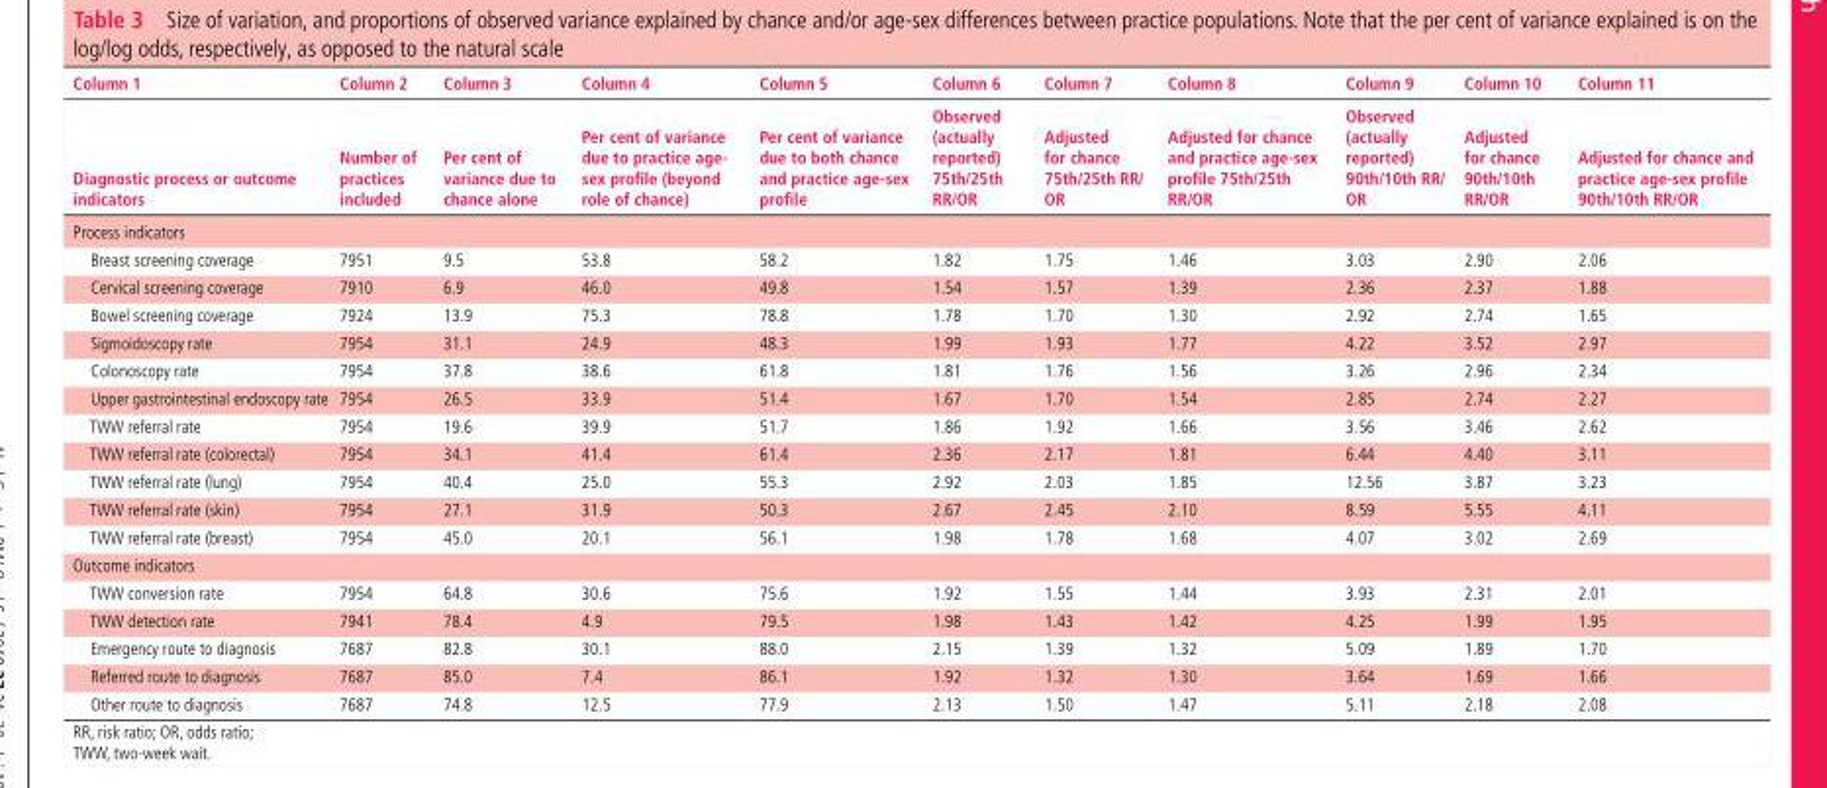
<table><thead><tr><td rowspan="2">Column 1 Diagnostic process or outcome indicators</td><td rowspan="2">Column 2 Number of practices included</td><td rowspan="2">Column 3 Per cent of variance due to chance alone</td><td rowspan="2">Column 4 Per cent of variance due to practice age- sex profile (beyond role of chance)</td><td rowspan="2">Column 5 Per cent of variance due to both chance and practice age-sex profile</td><td rowspan="2">Column 6 Observed (actually reported) 75th/25th RR/OR</td><td rowspan="2">Column 7 Adjusted for chance 75th/25th RR/ OR</td><td rowspan="2">Column 8 Adjusted for chance and practice age-sex profile 75th/25th RR/OR</td><td rowspan="2">Column 9 Observed (actually reported) 90th/10th RR/ OR</td><td rowspan="2">Column 10 Adjusted for chance 90th/10th RR/OR</td><td rowspan="2">Column 11 Adjusted for chance and practice age-sex profile 90th/10th RR/OR</td></tr><tr></tr></thead><tbody><tr><td colspan="11">Process indicators</td></tr><tr><td>Breast screening coverage</td><td>7951</td><td>9.5</td><td>53.8</td><td>58.2</td><td>1.82</td><td>1.75</td><td>1.46</td><td>3.03</td><td>2.90</td><td>2.06</td></tr><tr><td>Cervical screening coverage</td><td>7910</td><td>6.9</td><td>46.0</td><td>49.8</td><td>1.54</td><td>1.57</td><td>1.39</td><td>2.36</td><td>2.37</td><td>1.88</td></tr><tr><td>Bowel screening coverage</td><td>7924</td><td>13.9</td><td>75.3</td><td>78.8</td><td>1.78</td><td>1.70</td><td>1.30</td><td>2.92</td><td>2.74</td><td>1.65</td></tr><tr><td>Sigmoidoscopy rate</td><td>7954</td><td>31.1</td><td>24.9</td><td>48.3</td><td>1.99</td><td>1.93</td><td>1.77</td><td>4.22</td><td>3.52</td><td>2.97</td></tr><tr><td>Colonoscopy rate</td><td>7954</td><td>37.8</td><td>38.6</td><td>61.8</td><td>1.81</td><td>1.76</td><td>1.56</td><td>3.26</td><td>2.96</td><td>2.34</td></tr><tr><td>Upper gastrointestinal endoscopy rate</td><td>7954</td><td>26.5</td><td>33.9</td><td>51.4</td><td>1.67</td><td>1.70</td><td>1.54</td><td>2.85</td><td>2.74</td><td>2.27</td></tr><tr><td>TWW referral rate</td><td>7954</td><td>19.6</td><td>39.9</td><td>51.7</td><td>1.86</td><td>1.92</td><td>1.66</td><td>3.56</td><td>3.46</td><td>2.62</td></tr><tr><td>TWW referral rate (colorectal)</td><td>7954</td><td>34.1</td><td>41.4</td><td>61.4</td><td>2.36</td><td>2.17</td><td>1.81</td><td>6.44</td><td>4.40</td><td>3.11</td></tr><tr><td>TWW referral rate (lung)</td><td>7954</td><td>40.4</td><td>25.0</td><td>55.3</td><td>2.92</td><td>2.03</td><td>1.85</td><td>12.56</td><td>3.87</td><td>3.23</td></tr><tr><td>TWW referral rate (skin)</td><td>7954</td><td>27.1</td><td>31.9</td><td>50.3</td><td>2.67</td><td>2.45</td><td>2.10</td><td>8.59</td><td>5.55</td><td>4.11</td></tr><tr><td>TWW referral rate (breast)</td><td>7954</td><td>45.0</td><td>20.1</td><td>56.1</td><td>1.98</td><td>1.78</td><td>1.68</td><td>4.07</td><td>3.02</td><td>2.69</td></tr><tr><td colspan="11">Outcome indicators</td></tr><tr><td>TWW conversion rate</td><td>7954</td><td>64.8</td><td>30.6</td><td>75.6</td><td>1.92</td><td>1.55</td><td>1.44</td><td>3.93</td><td>2.31</td><td>2.01</td></tr><tr><td>TWW detection rate</td><td>7941</td><td>78.4</td><td>4.9</td><td>79.5</td><td>1.98</td><td>1.43</td><td>1.42</td><td>4.25</td><td>1.99</td><td>1.95</td></tr><tr><td>Emergency route to diagnosis</td><td>7687</td><td>82.8</td><td>30.1</td><td>88.0</td><td>2.15</td><td>1.39</td><td>1.32</td><td>5.09</td><td>1.89</td><td>1.70</td></tr><tr><td>Referred route to diagnosis</td><td>7687</td><td>85.0</td><td>7.4</td><td>86.1</td><td>1.92</td><td>1.32</td><td>1.30</td><td>3.64</td><td>1.69</td><td>1.66</td></tr><tr><td>Other route to diagnosis</td><td>7687</td><td>74.8</td><td>12.5</td><td>77.9</td><td>2.13</td><td>1.50</td><td>1.47</td><td>5.11</td><td>2.18</td><td>2.08</td></tr></tbody></table>